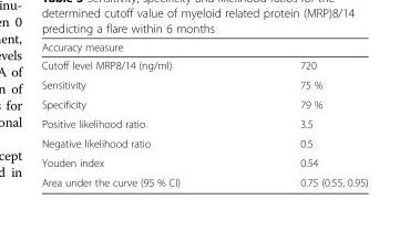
<table><thead><tr><td>Accuracy measure</td><td></td></tr></thead><tbody><tr><td>Cutoff level MRP8/14 (ng/ml)</td><td>720</td></tr><tr><td>Sensitivity</td><td>75 %</td></tr><tr><td>Specificity</td><td>79 %</td></tr><tr><td>Positive likelihood ratio</td><td>3.5</td></tr><tr><td>Negative likelihood ratio</td><td>0.5</td></tr><tr><td>Youden index</td><td>0.54</td></tr><tr><td>Area under the curve (95 % CI)</td><td>0.75 (0.55, 0.95)</td></tr></tbody></table>